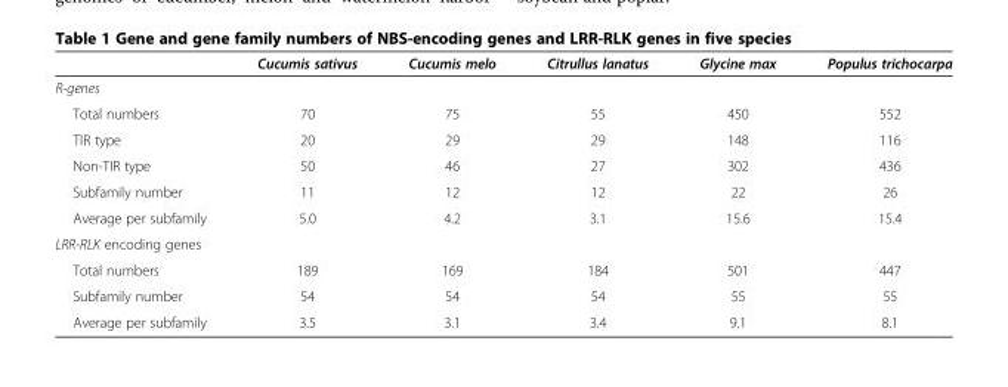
<table><thead><tr><td></td><td>Cucumis sativus</td><td>Cucumis melo</td><td>Citrullus lanatus</td><td>Glycine max</td><td>Populus trichocarpa</td></tr></thead><tbody><tr><td colspan="6">R-genes</td></tr><tr><td>Total numbers</td><td>70</td><td>75</td><td>55</td><td>450</td><td>552</td></tr><tr><td>TIR type</td><td>20</td><td>29</td><td>29</td><td>148</td><td>116</td></tr><tr><td>Non-TIR type</td><td>50</td><td>46</td><td>27</td><td>302</td><td>436</td></tr><tr><td>Subfamily number</td><td>11</td><td>12</td><td>12</td><td>22</td><td>26</td></tr><tr><td>Average per subfamily</td><td>5.0</td><td>4.2</td><td>3.1</td><td>15.6</td><td>15.4</td></tr><tr><td colspan="6">LRR-RLK encoding genes</td></tr><tr><td>Total numbers</td><td>189</td><td>169</td><td>184</td><td>501</td><td>447</td></tr><tr><td>Subfamily number</td><td>54</td><td>54</td><td>54</td><td>55</td><td>55</td></tr><tr><td>Average per subfamily</td><td>3.5</td><td>3.1</td><td>3.4</td><td>9.1</td><td>8.1</td></tr></tbody></table>